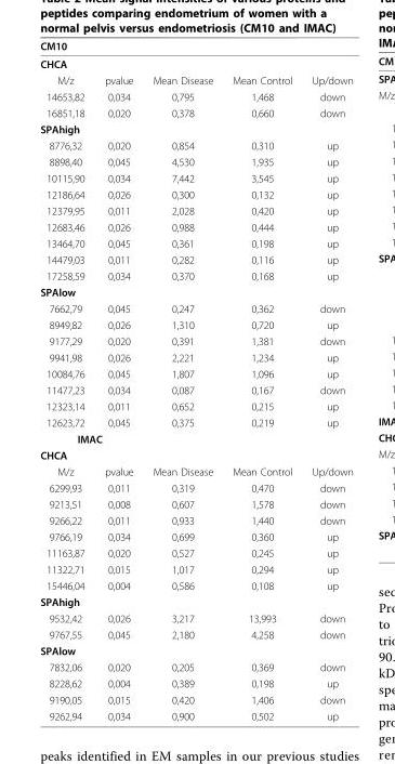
<table><thead><tr><td colspan="2">CM10</td><td rowspan="2"></td><td rowspan="2"></td><td rowspan="2"></td></tr><tr><td>CHCA</td><td></td></tr></thead><tbody><tr><td>M/z</td><td>pvalue</td><td>Mean Disease</td><td>Mean Control</td><td>Up/down</td></tr><tr><td>14653,82</td><td>0,034</td><td>0,795</td><td>1,468</td><td>down</td></tr><tr><td>16851,18</td><td>0,020</td><td>0,378</td><td>0,660</td><td>down</td></tr><tr><td colspan="5">SPAhigh</td></tr><tr><td>8776,32</td><td>0,020</td><td>0,854</td><td>0,310</td><td>up</td></tr><tr><td>8898,40</td><td>0,045</td><td>4,530</td><td>1,935</td><td>up</td></tr><tr><td>10115,90</td><td>0,034</td><td>7,442</td><td>3,545</td><td>up</td></tr><tr><td>12186,64</td><td>0,026</td><td>0,300</td><td>0,132</td><td>up</td></tr><tr><td>12379,95</td><td>0,011</td><td>2,028</td><td>0,420</td><td>up</td></tr><tr><td>12683,46</td><td>0,026</td><td>0,988</td><td>0,444</td><td>up</td></tr><tr><td>13464,70</td><td>0,045</td><td>0,361</td><td>0,198</td><td>up</td></tr><tr><td>14479,03</td><td>0,011</td><td>0,282</td><td>0,116</td><td>up</td></tr><tr><td>17258,59</td><td>0,034</td><td>0,370</td><td>0,168</td><td>up</td></tr><tr><td colspan="5">SPAlow</td></tr><tr><td>7662,79</td><td>0,045</td><td>0,247</td><td>0,362</td><td>down</td></tr><tr><td>8949,82</td><td>0,026</td><td>1,310</td><td>0,720</td><td>up</td></tr><tr><td>9177,29</td><td>0,020</td><td>0,391</td><td>1,381</td><td>down</td></tr><tr><td>9941,98</td><td>0,026</td><td>2,221</td><td>1,234</td><td>up</td></tr><tr><td>10084,76</td><td>0,045</td><td>1,807</td><td>1,096</td><td>up</td></tr><tr><td>11477,23</td><td>0,034</td><td>0,087</td><td>0,167</td><td>down</td></tr><tr><td>12323,14</td><td>0,011</td><td>0,652</td><td>0,215</td><td>up</td></tr><tr><td>12623,72</td><td>0,045</td><td>0,375</td><td>0,219</td><td>up</td></tr><tr><td colspan="5">IMAC</td></tr><tr><td colspan="5">CHCA</td></tr><tr><td>M/z</td><td>pvalue</td><td>Mean Disease</td><td>Mean Control</td><td>Up/down</td></tr><tr><td>6299,93</td><td>0,011</td><td>0,319</td><td>0,470</td><td>down</td></tr><tr><td>9213,51</td><td>0,008</td><td>0,607</td><td>1,578</td><td>down</td></tr><tr><td>9266,22</td><td>0,011</td><td>0,933</td><td>1,440</td><td>down</td></tr><tr><td>9766,19</td><td>0,034</td><td>0,699</td><td>0,360</td><td>up</td></tr><tr><td>11163,87</td><td>0,020</td><td>0,527</td><td>0,245</td><td>up</td></tr><tr><td>11322,71</td><td>0,015</td><td>1,017</td><td>0,294</td><td>up</td></tr><tr><td>15446,04</td><td>0,004</td><td>0,586</td><td>0,108</td><td>up</td></tr><tr><td colspan="5">SPAhigh</td></tr><tr><td>9532,42</td><td>0,026</td><td>3,217</td><td>13,993</td><td>down</td></tr><tr><td>9767,55</td><td>0,045</td><td>2,180</td><td>4,258</td><td>down</td></tr><tr><td colspan="5">SPAlow</td></tr><tr><td>7832,06</td><td>0,020</td><td>0,205</td><td>0,369</td><td>down</td></tr><tr><td>8228,62</td><td>0,004</td><td>0,389</td><td>0,198</td><td>up</td></tr><tr><td>9190,05</td><td>0,015</td><td>0,420</td><td>1,406</td><td>down</td></tr><tr><td>9262,94</td><td>0,034</td><td>0,900</td><td>0,502</td><td>up</td></tr></tbody></table>